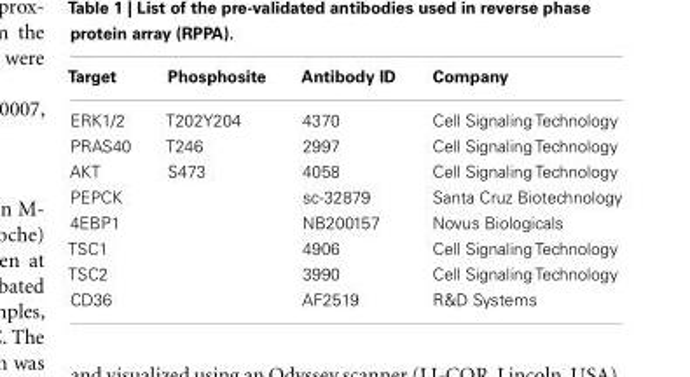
<table><thead><tr><td>Target</td><td>Phosphosite</td><td>Antibody ID</td><td>Company</td></tr></thead><tbody><tr><td>ERK1/2</td><td>T202Y204</td><td>4370</td><td>Cell Signaling Technology</td></tr><tr><td>PRAS40</td><td>T246</td><td>2997</td><td>Cell Signaling Technology</td></tr><tr><td>AKT</td><td>S473</td><td>4058</td><td>Cell Signaling Technology</td></tr><tr><td>PEPCK</td><td></td><td>sc-32879</td><td>Santa Cruz Biotechnology</td></tr><tr><td>4EBP1</td><td></td><td>NB200157</td><td>Novus Biologicals</td></tr><tr><td>TSC1</td><td></td><td>4906</td><td>Cell Signaling Technology</td></tr><tr><td>TSC2</td><td></td><td>3990</td><td>Cell Signaling Technology</td></tr><tr><td>CD36</td><td></td><td>AF2519</td><td>R&amp;D Systems</td></tr></tbody></table>